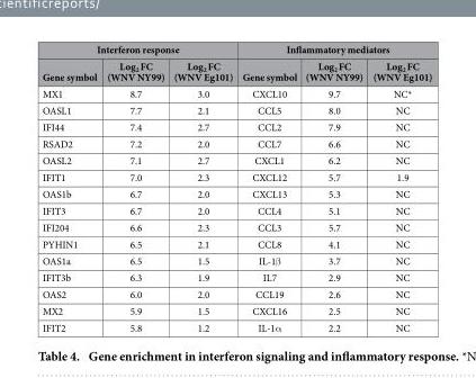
<table><thead><tr><td colspan="3">Interferon response</td><td colspan="3">Inflammatory mediators</td></tr><tr><td>Gene symbol</td><td>Log<sub>2</sub> FC (WNV NY99)</td><td>Log<sub>2</sub> FC (WNV Eg101)</td><td>Gene symbol</td><td>Log<sub>2</sub> FC (WNV NY99)</td><td>Log<sub>2</sub> FC (WNV Eg101)</td></tr></thead><tbody><tr><td>MX1</td><td>8.7</td><td>3.0</td><td>CXCL10</td><td>9.7</td><td>NC*</td></tr><tr><td>OASL1</td><td>7.7</td><td>2.1</td><td>CCL5</td><td>8.0</td><td>NC</td></tr><tr><td>IFI44</td><td>7.4</td><td>2.7</td><td>CCL2</td><td>7.9</td><td>NC</td></tr><tr><td>RSAD2</td><td>7.2</td><td>2.0</td><td>CCL7</td><td>6.6</td><td>NC</td></tr><tr><td>OASL2</td><td>7.1</td><td>2.7</td><td>CXCL1</td><td>6.2</td><td>NC</td></tr><tr><td>IFIT1</td><td>7.0</td><td>2.3</td><td>CXCL12</td><td>5.7</td><td>1.9</td></tr><tr><td>OAS1b</td><td>6.7</td><td>2.0</td><td>CXCL13</td><td>5.3</td><td>NC</td></tr><tr><td>IFIT3</td><td>6.7</td><td>2.0</td><td>CCL4</td><td>5.1</td><td>NC</td></tr><tr><td>IFI204</td><td>6.6</td><td>2.3</td><td>CCL3</td><td>5.7</td><td>NC</td></tr><tr><td>PYHIN1</td><td>6.5</td><td>2.1</td><td>CCL8</td><td>4.1</td><td>NC</td></tr><tr><td>OAS1a</td><td>6.5</td><td>1.5</td><td>IL-1β</td><td>3.7</td><td>NC</td></tr><tr><td>IFIT3b</td><td>6.3</td><td>1.9</td><td>IL7</td><td>2.9</td><td>NC</td></tr><tr><td>OAS2</td><td>6.0</td><td>2.0</td><td>CCL19</td><td>2.6</td><td>NC</td></tr><tr><td>MX2</td><td>5.9</td><td>1.5</td><td>CXCL16</td><td>2.5</td><td>NC</td></tr><tr><td>IFIT2</td><td>5.8</td><td>1.2</td><td>IL-1α</td><td>2.2</td><td>NC</td></tr></tbody></table>